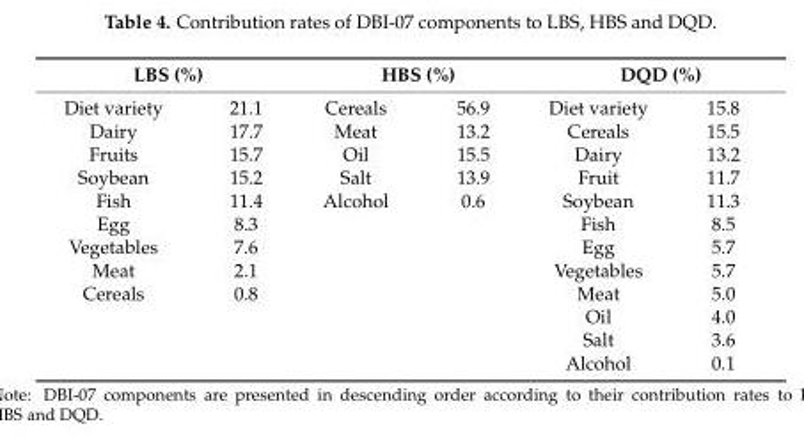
<table><thead><tr><td colspan="2">LBS (%)</td><td colspan="2">HBS (%)</td><td colspan="2">DQD (%)</td></tr><tr><td>Diet variety</td><td>21.1</td><td>Cereals</td><td>56.9</td><td>Diet variety</td><td>15.8</td></tr></thead><tbody><tr><td>Dairy</td><td>17.7</td><td>Meat</td><td>13.2</td><td>Cereals</td><td>15.5</td></tr><tr><td>Fruits</td><td>15.7</td><td>Oil</td><td>15.5</td><td>Dairy</td><td>13.2</td></tr><tr><td>Soybean</td><td>15.2</td><td>Salt</td><td>13.9</td><td>Fruit</td><td>11.7</td></tr><tr><td>Fish</td><td>11.4</td><td>Alcohol</td><td>0.6</td><td>Soybean</td><td>11.3</td></tr><tr><td>Egg</td><td>8.3</td><td></td><td></td><td>Fish</td><td>8.5</td></tr><tr><td>Vegetables</td><td>7.6</td><td></td><td></td><td>Egg</td><td>5.7</td></tr><tr><td>Meat</td><td>2.1</td><td></td><td></td><td>Vegetables</td><td>5.7</td></tr><tr><td rowspan="4">Cereals</td><td>0.8</td><td></td><td></td><td>Meat</td><td>5.0</td></tr><tr><td></td><td></td><td></td><td>Oil</td><td>4.0</td></tr><tr><td></td><td></td><td></td><td>Salt</td><td>3.6</td></tr><tr><td></td><td></td><td></td><td>Alcohol</td><td>0.1</td></tr></tbody></table>